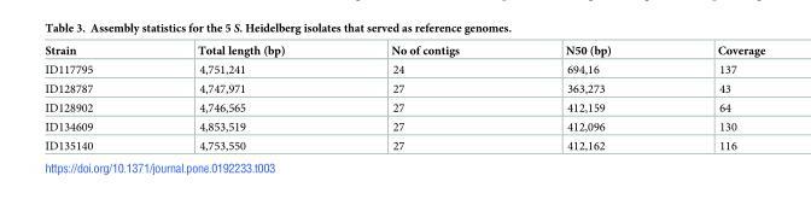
<table><thead><tr><td>Strain</td><td>Total length (bp)</td><td>No of contigs</td><td>N50 (bp)</td><td>Coverage</td></tr></thead><tbody><tr><td>ID117795</td><td>4,751,241</td><td>24</td><td>694,16</td><td>137</td></tr><tr><td>ID128787</td><td>4,747,971</td><td>27</td><td>363,273</td><td>43</td></tr><tr><td>ID128902</td><td>4,746,565</td><td>27</td><td>412,159</td><td>64</td></tr><tr><td>ID134609</td><td>4,853,519</td><td>27</td><td>412,096</td><td>130</td></tr><tr><td>ID135140</td><td>4,753,550</td><td>27</td><td>412,162</td><td>116</td></tr></tbody></table>